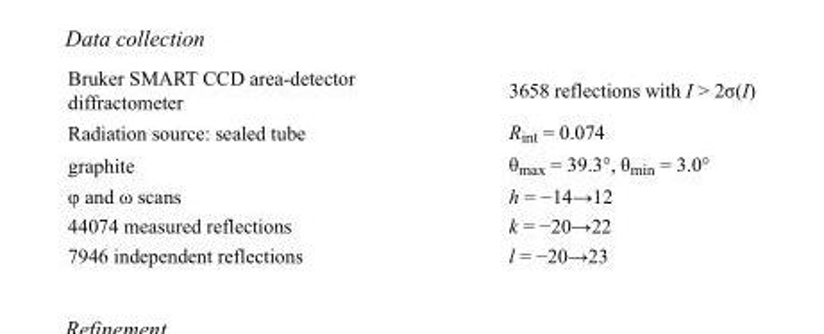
<table><tbody><tr><td>Bruker SMART CCD area-detector diffractometer</td><td>3658 reflections with I &gt; 2σ(I)</td></tr><tr><td>Radiation source: sealed tube</td><td>R<sub>int</sub> = 0.074</td></tr><tr><td>graphite</td><td>θ<sub>max</sub> = 39.3°, θ<sub>min</sub> = 3.0°</td></tr><tr><td>φ and ω scans</td><td>h = −14→12</td></tr><tr><td>44074 measured reflections</td><td>k = −20→22</td></tr><tr><td>7946 independent reflections</td><td>l = −20→23</td></tr></tbody></table>